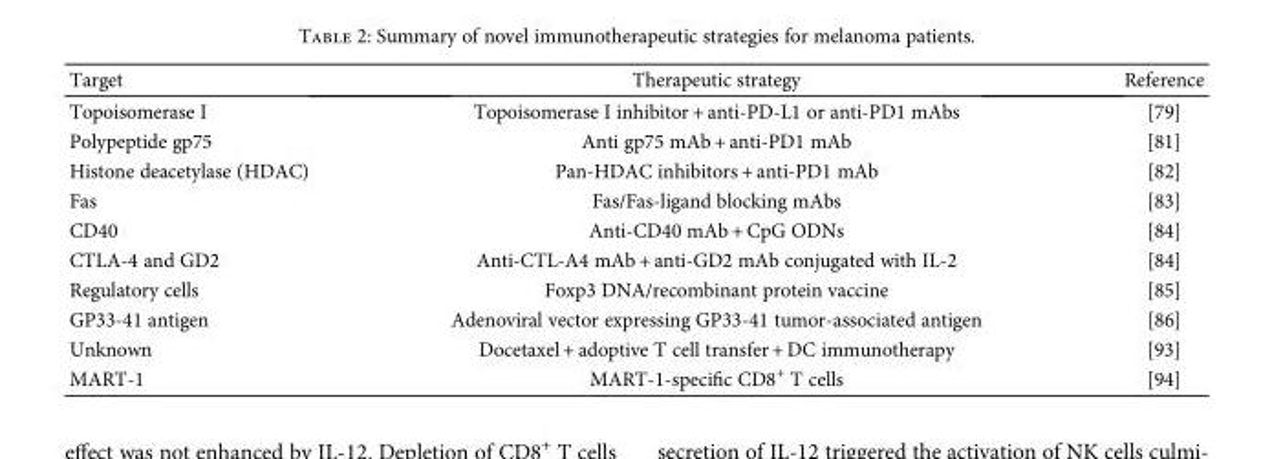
<table><thead><tr><td>Target</td><td>Therapeutic strategy</td><td>Reference</td></tr></thead><tbody><tr><td>Topoisomerase I</td><td>Topoisomerase I inhibitor + anti-PD-L1 or anti-PD1 mAbs</td><td>[79]</td></tr><tr><td>Polypeptide gp75</td><td>Anti gp75 mAb + anti-PD1 mAb</td><td>[81]</td></tr><tr><td>Histone deacetylase (HDAC)</td><td>Pan-HDAC inhibitors + anti-PD1 mAb</td><td>[82]</td></tr><tr><td>Fas</td><td>Fas/Fas-ligand blocking mAbs</td><td>[83]</td></tr><tr><td>CD40</td><td>Anti-CD40 mAb + CpG ODNs</td><td>[84]</td></tr><tr><td>CTLA-4 and GD2</td><td>Anti-CTL-A4 mAb + anti-GD2 mAb conjugated with IL-2</td><td>[84]</td></tr><tr><td>Regulatory cells</td><td>Foxp3 DNA/recombinant protein vaccine</td><td>[85]</td></tr><tr><td>GP33-41 antigen</td><td>Adenoviral vector expressing GP33-41 tumor-associated antigen</td><td>[86]</td></tr><tr><td>Unknown</td><td>Docetaxel + adoptive T cell transfer + DC immunotherapy</td><td>[93]</td></tr><tr><td>MART-1</td><td>MART-1-specific CD8<sup>+</sup> T cells</td><td>[94]</td></tr></tbody></table>